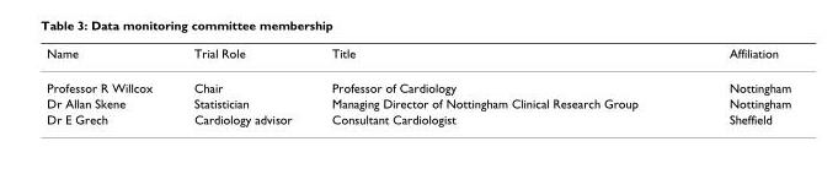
<table><thead><tr><td>Name</td><td>Trial Role</td><td>Title</td><td>Affiliation</td></tr></thead><tbody><tr><td>Professor R Willcox</td><td>Chair</td><td>Professor of Cardiology</td><td>Nottingham</td></tr><tr><td>Dr Allan Skene</td><td>Statistician</td><td>Managing Director of Nottingham Clinical Research Group</td><td>Nottingham</td></tr><tr><td>Dr E Grech</td><td>Cardiology advisor</td><td>Consultant Cardiologist</td><td>Sheffield</td></tr></tbody></table>